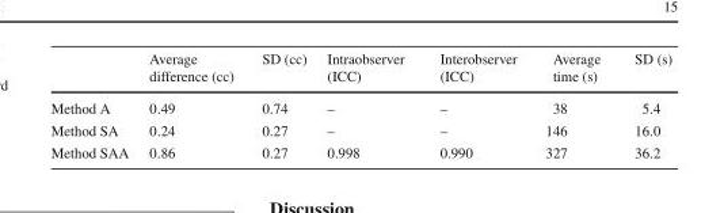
<table><thead><tr><td></td><td>Average difference (cc)</td><td>SD (cc)</td><td>Intraobserver (ICC)</td><td>Interobserver (ICC)</td><td>Average time (s)</td><td>SD (s)</td></tr></thead><tbody><tr><td>Method A</td><td>0.49</td><td>0.74</td><td>–</td><td>–</td><td>38</td><td>5.4</td></tr><tr><td>Method SA</td><td>0.24</td><td>0.27</td><td>–</td><td>–</td><td>146</td><td>16.0</td></tr><tr><td>Method SAA</td><td>0.86</td><td>0.27</td><td>0.998</td><td>0.990</td><td>327</td><td>36.2</td></tr></tbody></table>